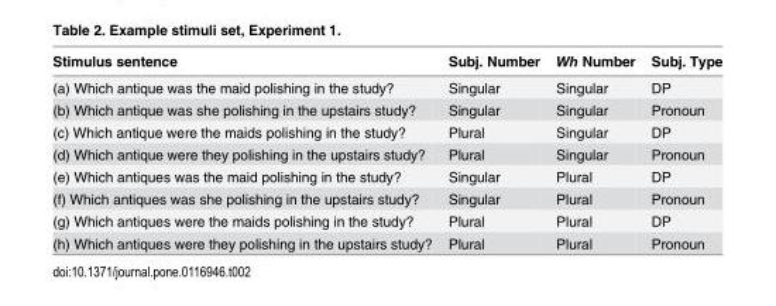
<table><thead><tr><td>Stimulus sentence</td><td>Subj. Number</td><td>Wh Number</td><td>Subj. Type</td></tr></thead><tbody><tr><td>(a) Which antique was the maid polishing in the study?</td><td>Singular</td><td>Singular</td><td>DP</td></tr><tr><td>(b) Which antique was she polishing in the upstairs study?</td><td>Singular</td><td>Singular</td><td>Pronoun</td></tr><tr><td>(c) Which antique were the maids polishing in the study?</td><td>Plural</td><td>Singular</td><td>DP</td></tr><tr><td>(d) Which antique were they polishing in the upstairs study?</td><td>Plural</td><td>Singular</td><td>Pronoun</td></tr><tr><td>(e) Which antiques was the maid polishing in the study?</td><td>Singular</td><td>Plural</td><td>DP</td></tr><tr><td>(f) Which antiques was she polishing in the upstairs study?</td><td>Singular</td><td>Plural</td><td>Pronoun</td></tr><tr><td>(g) Which antiques were the maids polishing in the study?</td><td>Plural</td><td>Plural</td><td>DP</td></tr><tr><td>(h) Which antiques were they polishing in the upstairs study?</td><td>Plural</td><td>Plural</td><td>Pronoun</td></tr></tbody></table>